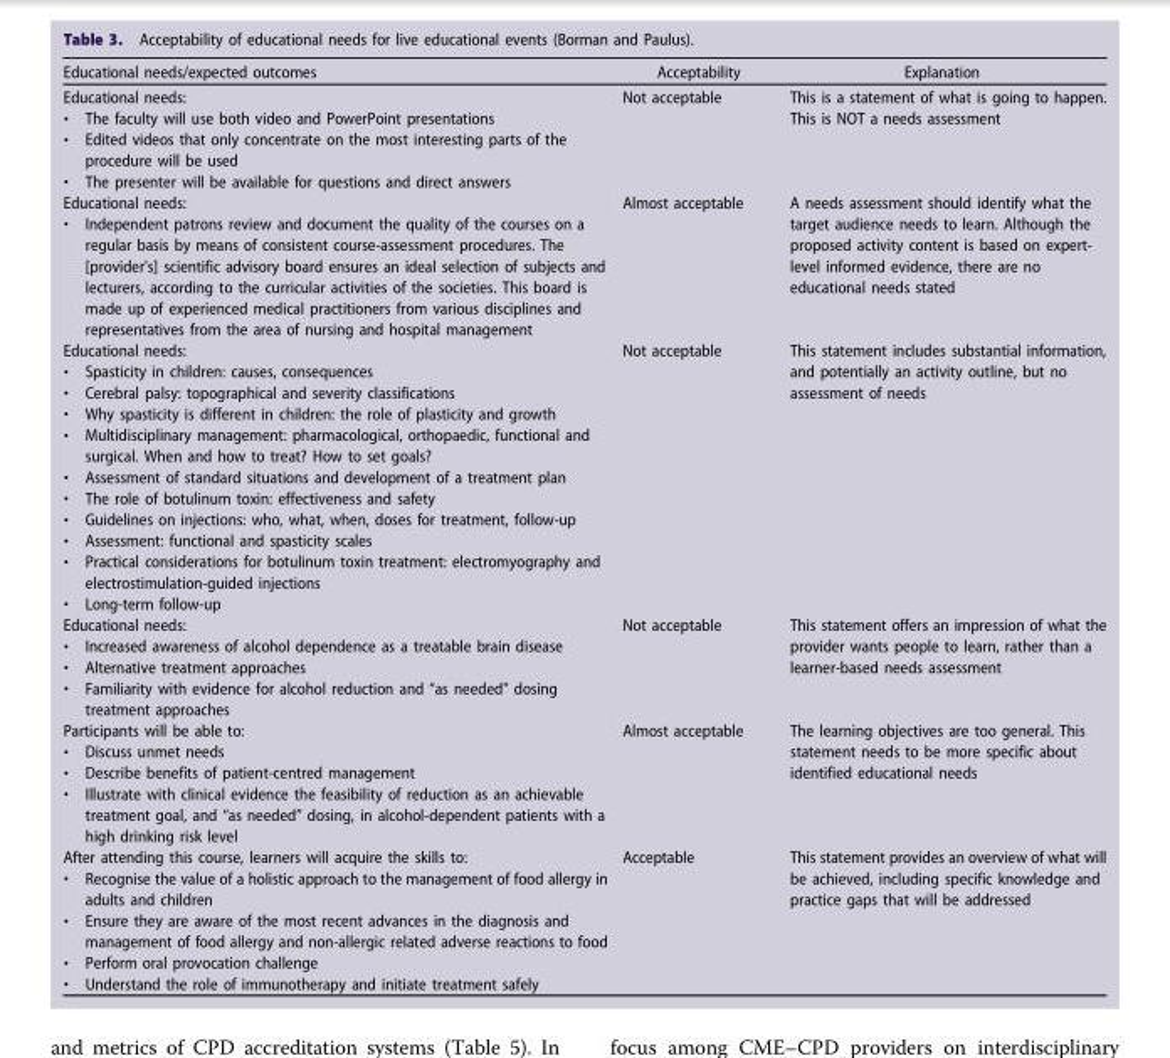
<table><thead><tr><td>Educational needs/expected outcomes</td><td>Acceptability</td><td>Explanation</td></tr></thead><tbody><tr><td>Educational needs: • The faculty will use both video and PowerPoint presentations • Edited videos that only concentrate on the most interesting parts of the procedure will be used • The presenter will be available for questions and direct answers</td><td>Not acceptable</td><td>This is a statement of what is going to happen. This is NOT a needs assessment</td></tr><tr><td>Educational needs: • Independent patrons review and document the quality of the courses on a regular basis by means of consistent course-assessment procedures. The [provider&#x27;s] scientific advisory board ensures an ideal selection of subjects and lecturers, according to the curricular activities of the societies. This board is made up of experienced medical practitioners from various disciplines and representatives from the area of nursing and hospital management</td><td>Almost acceptable</td><td>A needs assessment should identify what the target audience needs to learn. Although the proposed activity content is based on expert- level informed evidence, there are no educational needs stated</td></tr><tr><td>Educational needs: • Spasticity in children: causes, consequences • Cerebral palsy: topographical and severity classifications • Why spasticity is different in children: the role of plasticity and growth • Multidisciplinary management: pharmacological, orthopaedic, functional and surgical. When and how to treat? How to set goals? • Assessment of standard situations and development of a treatment plan • The role of botulinum toxin: effectiveness and safety • Guidelines on injections: who, what, when, doses for treatment, follow-up • Assessment: functional and spasticity scales • Practical considerations for botulinum toxin treatment: electromyography and electrostimulation-guided injections • Long-term follow-up</td><td>Not acceptable</td><td>This statement includes substantial information, and potentially an activity outline, but no assessment of needs</td></tr><tr><td>Educational needs: • Increased awareness of alcohol dependence as a treatable brain disease • Alternative treatment approaches • Familiarity with evidence for alcohol reduction and “as needed” dosing treatment approaches</td><td>Not acceptable</td><td>This statement offers an impression of what the provider wants people to learn, rather than a learner-based needs assessment</td></tr><tr><td>Participants will be able to: • Discuss unmet needs • Describe benefits of patient-centred management • Illustrate with clinical evidence the feasibility of reduction as an achievable treatment goal, and “as needed” dosing, in alcohol-dependent patients with a high drinking risk level</td><td>Almost acceptable</td><td>The learning objectives are too general. This statement needs to be more specific about identified educational needs</td></tr><tr><td>After attending this course, learners will acquire the skills to: • Recognise the value of a holistic approach to the management of food allergy in adults and children • Ensure they are aware of the most recent advances in the diagnosis and management of food allergy and non-allergic related adverse reactions to food • Perform oral provocation challenge • Understand the role of immunotherapy and initiate treatment safely</td><td>Acceptable</td><td>This statement provides an overview of what will be achieved, including specific knowledge and practice gaps that will be addressed</td></tr></tbody></table>